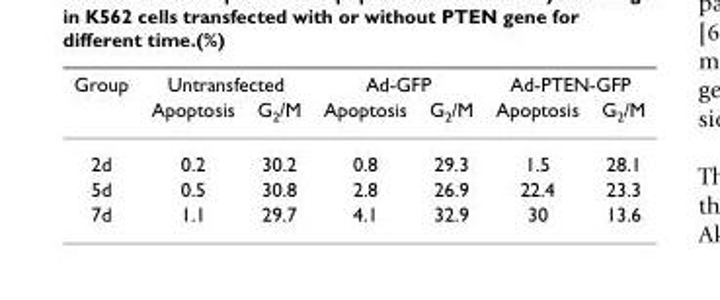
<table><thead><tr><td rowspan="2">Group</td><td colspan="2">Untransfected</td><td colspan="2">Ad-GFP</td><td colspan="2">Ad-PTEN-GFP</td></tr><tr><td>Apoptosis</td><td>G<sub>2</sub>/M</td><td>Apoptosis</td><td>G<sub>2</sub>/M</td><td>Apoptosis</td><td>G<sub>2</sub>/M</td></tr></thead><tbody><tr><td>2d</td><td>0.2</td><td>30.2</td><td>0.8</td><td>29.3</td><td>1.5</td><td>28.1</td></tr><tr><td>5d</td><td>0.5</td><td>30.8</td><td>2.8</td><td>26.9</td><td>22.4</td><td>23.3</td></tr><tr><td>7d</td><td>1.1</td><td>29.7</td><td>4.1</td><td>32.9</td><td>30</td><td>13.6</td></tr></tbody></table>